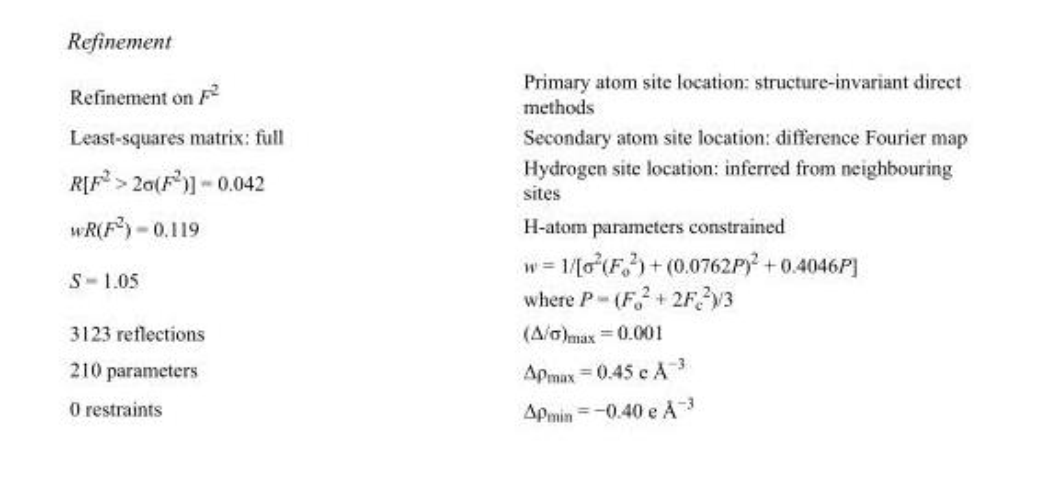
<table><tbody><tr><td>Refinement on F<sup>2</sup></td><td>Primary atom site location: structure-invariant direct methods</td></tr><tr><td>Least-squares matrix: full</td><td>Secondary atom site location: difference Fourier map</td></tr><tr><td>R[F<sup>2</sup> &gt; 2σ(F<sup>2</sup>)] = 0.042</td><td>Hydrogen site location: inferred from neighbouring sites</td></tr><tr><td>wR(F<sup>2</sup>) = 0.119</td><td>H-atom parameters constrained</td></tr><tr><td>S = 1.05</td><td>w = 1/[σ<sup>2</sup>(F<sub>o</sub> <sup>2</sup>) + (0.0762P)<sup>2</sup> + 0.4046P] where P = (F<sub>o</sub> <sup>2</sup> + 2F<sub>c</sub> <sup>2</sup>)/3</td></tr><tr><td>3123 reflections</td><td>(Δ/σ)<sub>max</sub> = 0.001</td></tr><tr><td>210 parameters</td><td>Δρ<sub>max</sub> = 0.45 e Å<sup>−3</sup></td></tr><tr><td>0 restraints</td><td>Δρ<sub>min</sub> = −0.40 e Å<sup>−3</sup></td></tr></tbody></table>